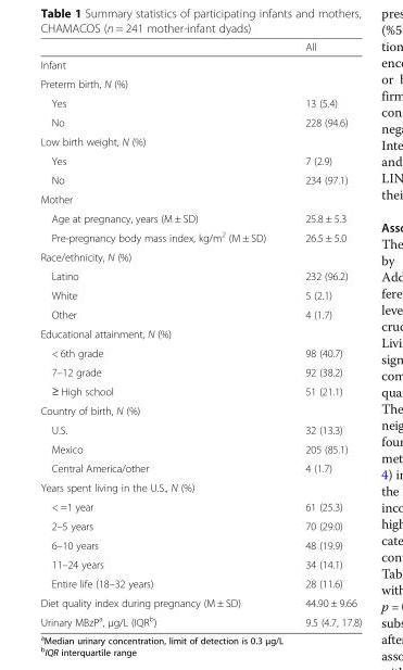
<table><thead><tr><td></td><td>All</td></tr></thead><tbody><tr><td colspan="2">Infant</td></tr><tr><td colspan="2">Preterm birth, N (%)</td></tr><tr><td>Yes</td><td>13 (5.4)</td></tr><tr><td>No</td><td>228 (94.6)</td></tr><tr><td colspan="2">Low birth weight, N (%)</td></tr><tr><td>Yes</td><td>7 (2.9)</td></tr><tr><td>No</td><td>234 (97.1)</td></tr><tr><td colspan="2">Mother</td></tr><tr><td>Age at pregnancy, years (M ± SD)</td><td>25.8 ± 5.3</td></tr><tr><td>Pre-pregnancy body mass index, kg/m<sup>2</sup> (M ± SD)</td><td>26.5 ± 5.0</td></tr><tr><td colspan="2">Race/ethnicity, N (%)</td></tr><tr><td>Latino</td><td>232 (96.2)</td></tr><tr><td>White</td><td>5 (2.1)</td></tr><tr><td>Other</td><td>4 (1.7)</td></tr><tr><td colspan="2">Educational attainment, N (%)</td></tr><tr><td>&lt; 6th grade</td><td>98 (40.7)</td></tr><tr><td>7–12 grade</td><td>92 (38.2)</td></tr><tr><td>≥ High school</td><td>51 (21.1)</td></tr><tr><td colspan="2">Country of birth, N (%)</td></tr><tr><td>U.S.</td><td>32 (13.3)</td></tr><tr><td>Mexico</td><td>205 (85.1)</td></tr><tr><td>Central America/other</td><td>4 (1.7)</td></tr><tr><td colspan="2">Years spent living in the U.S., N (%)</td></tr><tr><td>&lt; =1 year</td><td>61 (25.3)</td></tr><tr><td>2–5 years</td><td>70 (29.0)</td></tr><tr><td>6–10 years</td><td>48 (19.9)</td></tr><tr><td>11–24 years</td><td>34 (14.1)</td></tr><tr><td>Entire life (18–32 years)</td><td>28 (11.6)</td></tr><tr><td>Diet quality index during pregnancy (M ± SD)</td><td>44.90 ± 9.66</td></tr><tr><td>Urinary MBzP<sup>a</sup>, μg/L (IQR<sup>b</sup>)</td><td>9.5 (4.7, 17.8)</td></tr></tbody></table>